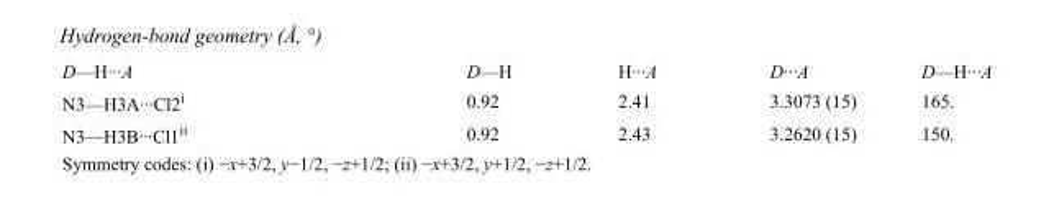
<table><tbody><tr><td>D—H···A</td><td>D—H</td><td>H···A</td><td>D···A</td><td>D—H···A</td></tr><tr><td>N3—H3A···Cl2<sup>i</sup></td><td>0.92</td><td>2.41</td><td>3.3073 (15)</td><td>165.</td></tr><tr><td>N3—H3B···Cl1<sup>ii</sup></td><td>0.92</td><td>2.43</td><td>3.2620 (15)</td><td>150.</td></tr></tbody></table>